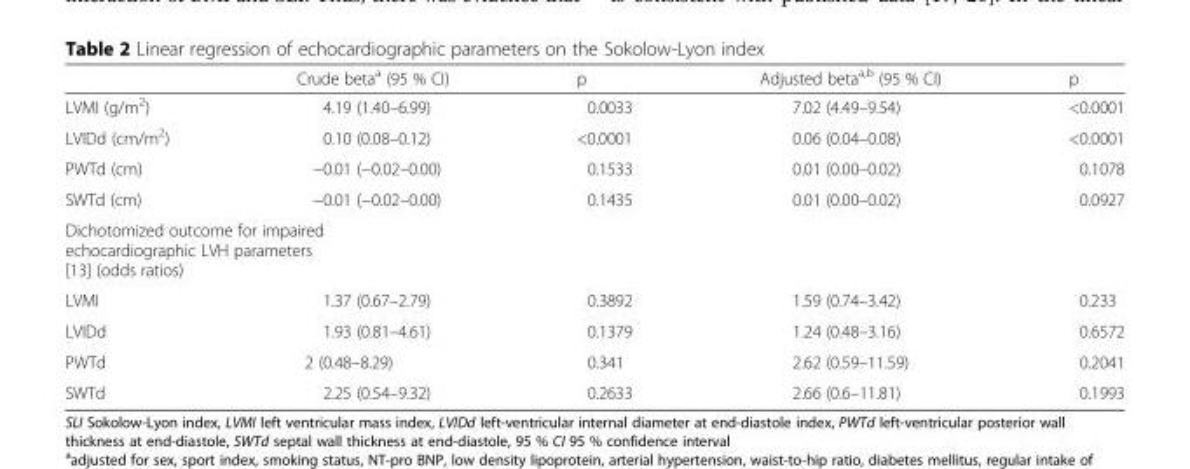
<table><thead><tr><td></td><td>Crude beta<sup>a</sup> (95 % CI)</td><td>p</td><td>Adjusted beta<sup>a,b</sup> (95 % CI)</td><td>p</td></tr></thead><tbody><tr><td>LVMI (g/m<sup>2</sup>)</td><td>4.19 (1.40–6.99)</td><td>0.0033</td><td>7.02 (4.49–9.54)</td><td>&lt;0.0001</td></tr><tr><td>LVIDd (cm/m<sup>2</sup>)</td><td>0.10 (0.08–0.12)</td><td>&lt;0.0001</td><td>0.06 (0.04–0.08)</td><td>&lt;0.0001</td></tr><tr><td>PWTd (cm)</td><td>−0.01 (−0.02–0.00)</td><td>0.1533</td><td>0.01 (0.00–0.02)</td><td>0.1078</td></tr><tr><td>SWTd (cm)</td><td>−0.01 (−0.02–0.00)</td><td>0.1435</td><td>0.01 (0.00–0.02)</td><td>0.0927</td></tr><tr><td colspan="5">Dichotomized outcome for impaired echocardiographic LVH parameters [13] (odds ratios)</td></tr><tr><td>LVMI</td><td>1.37 (0.67–2.79)</td><td>0.3892</td><td>1.59 (0.74–3.42)</td><td>0.233</td></tr><tr><td>LVIDd</td><td>1.93 (0.81–4.61)</td><td>0.1379</td><td>1.24 (0.48–3.16)</td><td>0.6572</td></tr><tr><td>PWTd</td><td>2 (0.48–8.29)</td><td>0.341</td><td>2.62 (0.59–11.59)</td><td>0.2041</td></tr><tr><td>SWTd</td><td>2.25 (0.54–9.32)</td><td>0.2633</td><td>2.66 (0.6–11.81)</td><td>0.1993</td></tr></tbody></table>